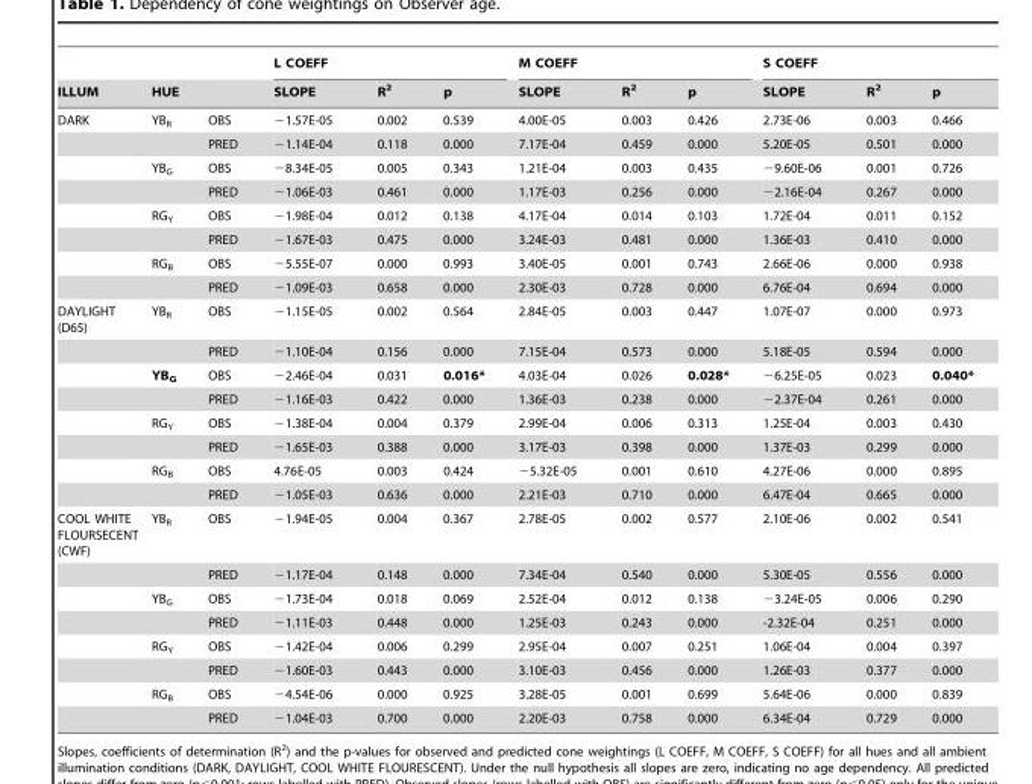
<table><thead><tr><td rowspan="2">ILLUM</td><td rowspan="2">HUE</td><td rowspan="2"></td><td colspan="3">L COEFF</td><td colspan="3">M COEFF</td><td colspan="3">S COEFF</td></tr><tr><td>SLOPE</td><td>R<sup>2</sup></td><td>p</td><td>SLOPE</td><td>R<sup>2</sup></td><td>p</td><td>SLOPE</td><td>R<sup>2</sup></td><td>p</td></tr></thead><tbody><tr><td rowspan="8">DARK</td><td>YB<sub>R</sub></td><td>OBS</td><td>−1.57E-05</td><td>0.002</td><td>0.539</td><td>4.00E-05</td><td>0.003</td><td>0.426</td><td>2.73E-06</td><td>0.003</td><td>0.466</td></tr><tr><td></td><td>PRED</td><td>−1.14E-04</td><td>0.118</td><td>0.000</td><td>7.17E-04</td><td>0.459</td><td>0.000</td><td>5.20E-05</td><td>0.501</td><td>0.000</td></tr><tr><td>YB<sub>G</sub></td><td>OBS</td><td>−8.34E-05</td><td>0.005</td><td>0.343</td><td>1.21E-04</td><td>0.003</td><td>0.435</td><td>−9.60E-06</td><td>0.001</td><td>0.726</td></tr><tr><td></td><td>PRED</td><td>−1.06E-03</td><td>0.461</td><td>0.000</td><td>1.17E-03</td><td>0.256</td><td>0.000</td><td>−2.16E-04</td><td>0.267</td><td>0.000</td></tr><tr><td>RG<sub>Y</sub></td><td>OBS</td><td>−1.98E-04</td><td>0.012</td><td>0.138</td><td>4.17E-04</td><td>0.014</td><td>0.103</td><td>1.72E-04</td><td>0.011</td><td>0.152</td></tr><tr><td></td><td>PRED</td><td>−1.67E-03</td><td>0.475</td><td>0.000</td><td>3.24E-03</td><td>0.481</td><td>0.000</td><td>1.36E-03</td><td>0.410</td><td>0.000</td></tr><tr><td>RG<sub>B</sub></td><td>OBS</td><td>−5.55E-07</td><td>0.000</td><td>0.993</td><td>3.40E-05</td><td>0.001</td><td>0.743</td><td>2.66E-06</td><td>0.000</td><td>0.938</td></tr><tr><td></td><td>PRED</td><td>−1.09E-03</td><td>0.658</td><td>0.000</td><td>2.30E-03</td><td>0.728</td><td>0.000</td><td>6.76E-04</td><td>0.694</td><td>0.000</td></tr><tr><td rowspan="8">DAYLIGHT (D65)</td><td>YB<sub>R</sub></td><td>OBS</td><td>−1.15E-05</td><td>0.002</td><td>0.564</td><td>2.84E-05</td><td>0.003</td><td>0.447</td><td>1.07E-07</td><td>0.000</td><td>0.973</td></tr><tr><td></td><td>PRED</td><td>−1.10E-04</td><td>0.156</td><td>0.000</td><td>7.15E-04</td><td>0.573</td><td>0.000</td><td>5.18E-05</td><td>0.594</td><td>0.000</td></tr><tr><td>YB<sub>G</sub></td><td>OBS</td><td>−2.46E-04</td><td>0.031</td><td>0.016*</td><td>4.03E-04</td><td>0.026</td><td>0.028*</td><td>−6.25E-05</td><td>0.023</td><td>0.040*</td></tr><tr><td></td><td>PRED</td><td>−1.16E-03</td><td>0.422</td><td>0.000</td><td>1.36E-03</td><td>0.238</td><td>0.000</td><td>−2.37E-04</td><td>0.261</td><td>0.000</td></tr><tr><td>RG<sub>Y</sub></td><td>OBS</td><td>−1.38E-04</td><td>0.004</td><td>0.379</td><td>2.99E-04</td><td>0.006</td><td>0.313</td><td>1.25E-04</td><td>0.003</td><td>0.430</td></tr><tr><td></td><td>PRED</td><td>−1.65E-03</td><td>0.388</td><td>0.000</td><td>3.17E-03</td><td>0.398</td><td>0.000</td><td>1.37E-03</td><td>0.299</td><td>0.000</td></tr><tr><td>RG<sub>B</sub></td><td>OBS</td><td>4.76E-05</td><td>0.003</td><td>0.424</td><td>−5.32E-05</td><td>0.001</td><td>0.610</td><td>4.27E-06</td><td>0.000</td><td>0.895</td></tr><tr><td></td><td>PRED</td><td>−1.05E-03</td><td>0.636</td><td>0.000</td><td>2.21E-03</td><td>0.710</td><td>0.000</td><td>6.47E-04</td><td>0.665</td><td>0.000</td></tr><tr><td rowspan="8">COOL WHITE FLOURSECENT (CWF)</td><td>YB<sub>R</sub></td><td>OBS</td><td>−1.94E-05</td><td>0.004</td><td>0.367</td><td>2.78E-05</td><td>0.002</td><td>0.577</td><td>2.10E-06</td><td>0.002</td><td>0.541</td></tr><tr><td></td><td>PRED</td><td>−1.17E-04</td><td>0.148</td><td>0.000</td><td>7.34E-04</td><td>0.540</td><td>0.000</td><td>5.30E-05</td><td>0.556</td><td>0.000</td></tr><tr><td>YB<sub>G</sub></td><td>OBS</td><td>−1.73E-04</td><td>0.018</td><td>0.069</td><td>2.52E-04</td><td>0.012</td><td>0.138</td><td>−3.24E-05</td><td>0.006</td><td>0.290</td></tr><tr><td></td><td>PRED</td><td>−1.11E-03</td><td>0.448</td><td>0.000</td><td>1.25E-03</td><td>0.243</td><td>0.000</td><td>-2.32E-04</td><td>0.251</td><td>0.000</td></tr><tr><td>RG<sub>Y</sub></td><td>OBS</td><td>−1.42E-04</td><td>0.006</td><td>0.299</td><td>2.95E-04</td><td>0.007</td><td>0.251</td><td>1.06E-04</td><td>0.004</td><td>0.397</td></tr><tr><td></td><td>PRED</td><td>−1.60E-03</td><td>0.443</td><td>0.000</td><td>3.10E-03</td><td>0.456</td><td>0.000</td><td>1.26E-03</td><td>0.377</td><td>0.000</td></tr><tr><td>RG<sub>B</sub></td><td>OBS</td><td>−4.54E-06</td><td>0.000</td><td>0.925</td><td>3.28E-05</td><td>0.001</td><td>0.699</td><td>5.64E-06</td><td>0.000</td><td>0.839</td></tr><tr><td></td><td>PRED</td><td>−1.04E-03</td><td>0.700</td><td>0.000</td><td>2.20E-03</td><td>0.758</td><td>0.000</td><td>6.34E-04</td><td>0.729</td><td>0.000</td></tr></tbody></table>